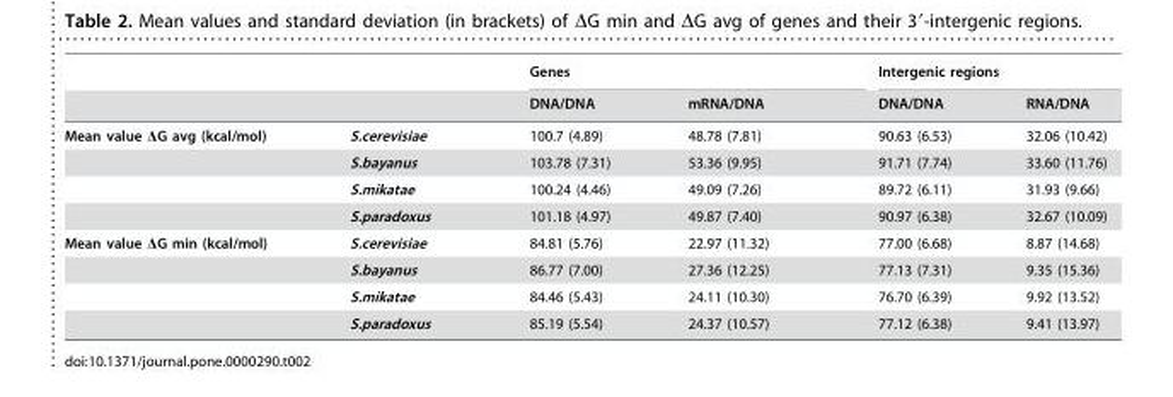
<table><thead><tr><td rowspan="2"></td><td rowspan="2"></td><td colspan="2">Genes</td><td colspan="2">Intergenic regions</td></tr><tr><td>DNA/DNA</td><td>mRNA/DNA</td><td>DNA/DNA</td><td>RNA/DNA</td></tr></thead><tbody><tr><td rowspan="4">Mean value ΔG avg (kcal/mol)</td><td>S.cerevisiae</td><td>100.7 (4.89)</td><td>48.78 (7.81)</td><td>90.63 (6.53)</td><td>32.06 (10.42)</td></tr><tr><td>S.bayanus</td><td>103.78 (7.31)</td><td>53.36 (9.95)</td><td>91.71 (7.74)</td><td>33.60 (11.76)</td></tr><tr><td>S.mikatae</td><td>100.24 (4.46)</td><td>49.09 (7.26)</td><td>89.72 (6.11)</td><td>31.93 (9.66)</td></tr><tr><td>S.paradoxus</td><td>101.18 (4.97)</td><td>49.87 (7.40)</td><td>90.97 (6.38)</td><td>32.67 (10.09)</td></tr><tr><td rowspan="4">Mean value ΔG min (kcal/mol)</td><td>S.cerevisiae</td><td>84.81 (5.76)</td><td>22.97 (11.32)</td><td>77.00 (6.68)</td><td>8.87 (14.68)</td></tr><tr><td>S.bayanus</td><td>86.77 (7.00)</td><td>27.36 (12.25)</td><td>77.13 (7.31)</td><td>9.35 (15.36)</td></tr><tr><td>S.mikatae</td><td>84.46 (5.43)</td><td>24.11 (10.30)</td><td>76.70 (6.39)</td><td>9.92 (13.52)</td></tr><tr><td>S.paradoxus</td><td>85.19 (5.54)</td><td>24.37 (10.57)</td><td>77.12 (6.38)</td><td>9.41 (13.97)</td></tr></tbody></table>